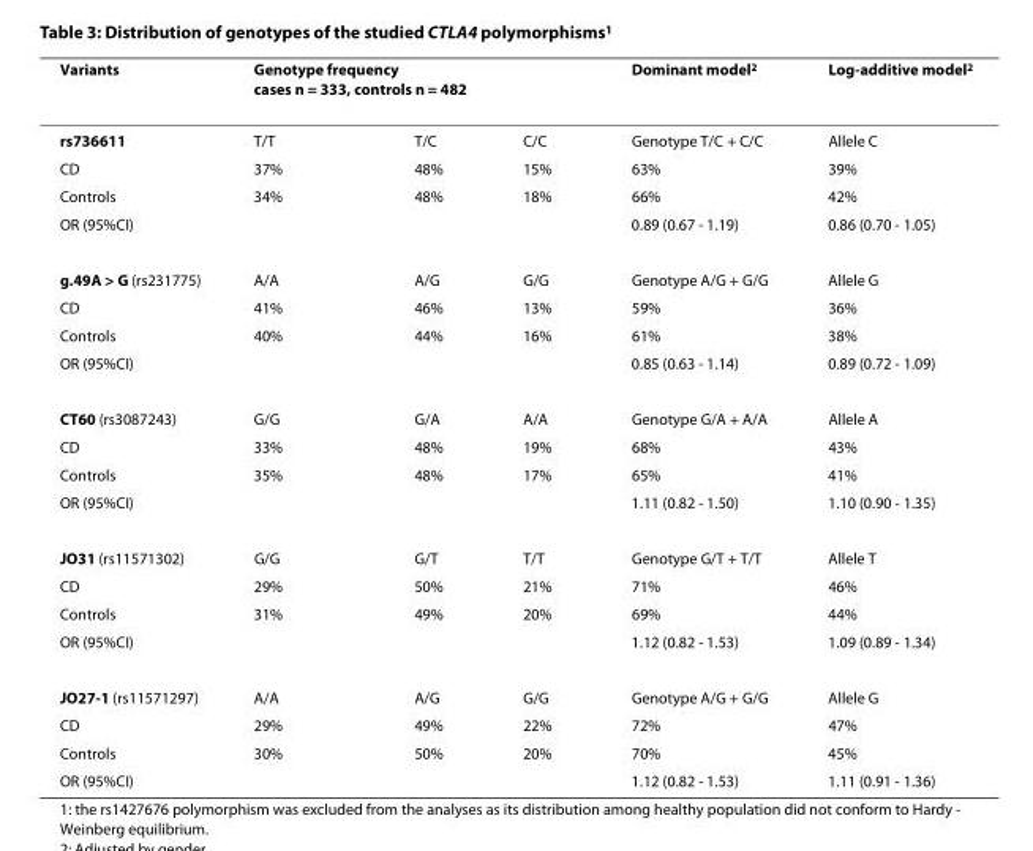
<table><thead><tr><td rowspan="2">Variants rs736611</td><td colspan="3">Genotype frequency cases n = 333, controls n = 482</td><td rowspan="2">Dominant model<sup>2</sup> Genotype T/C + C/C</td><td rowspan="2">Log-additive model<sup>2</sup> Allele C</td></tr><tr><td>T/T</td><td>T/C</td><td>C/C</td></tr></thead><tbody><tr><td>CD</td><td>37%</td><td>48%</td><td>15%</td><td>63%</td><td>39%</td></tr><tr><td>Controls</td><td>34%</td><td>48%</td><td>18%</td><td>66%</td><td>42%</td></tr><tr><td>OR (95%CI)</td><td></td><td></td><td></td><td>0.89 (0.67 - 1.19)</td><td>0.86 (0.70 - 1.05)</td></tr><tr><td>g.49A &gt; G (rs231775)</td><td>A/A</td><td>A/G</td><td>G/G</td><td>Genotype A/G + G/G</td><td>Allele G</td></tr><tr><td>CD</td><td>41%</td><td>46%</td><td>13%</td><td>59%</td><td>36%</td></tr><tr><td>Controls</td><td>40%</td><td>44%</td><td>16%</td><td>61%</td><td>38%</td></tr><tr><td>OR (95%CI)</td><td></td><td></td><td></td><td>0.85 (0.63 - 1.14)</td><td>0.89 (0.72 - 1.09)</td></tr><tr><td>CT60 (rs3087243)</td><td>G/G</td><td>G/A</td><td>A/A</td><td>Genotype G/A + A/A</td><td>Allele A</td></tr><tr><td>CD</td><td>33%</td><td>48%</td><td>19%</td><td>68%</td><td>43%</td></tr><tr><td>Controls</td><td>35%</td><td>48%</td><td>17%</td><td>65%</td><td>41%</td></tr><tr><td>OR (95%CI)</td><td></td><td></td><td></td><td>1.11 (0.82 - 1.50)</td><td>1.10 (0.90 - 1.35)</td></tr><tr><td>JO31 (rs11571302)</td><td>G/G</td><td>G/T</td><td>T/T</td><td>Genotype G/T + T/T</td><td>Allele T</td></tr><tr><td>CD</td><td>29%</td><td>50%</td><td>21%</td><td>71%</td><td>46%</td></tr><tr><td>Controls</td><td>31%</td><td>49%</td><td>20%</td><td>69%</td><td>44%</td></tr><tr><td>OR (95%CI)</td><td></td><td></td><td></td><td>1.12 (0.82 - 1.53)</td><td>1.09 (0.89 - 1.34)</td></tr><tr><td>JO27-1 (rs11571297)</td><td>A/A</td><td>A/G</td><td>G/G</td><td>Genotype A/G + G/G</td><td>Allele G</td></tr><tr><td>CD</td><td>29%</td><td>49%</td><td>22%</td><td>72%</td><td>47%</td></tr><tr><td>Controls</td><td>30%</td><td>50%</td><td>20%</td><td>70%</td><td>45%</td></tr><tr><td>OR (95%CI)</td><td></td><td></td><td></td><td>1.12 (0.82 - 1.53)</td><td>1.11 (0.91 - 1.36)</td></tr></tbody></table>